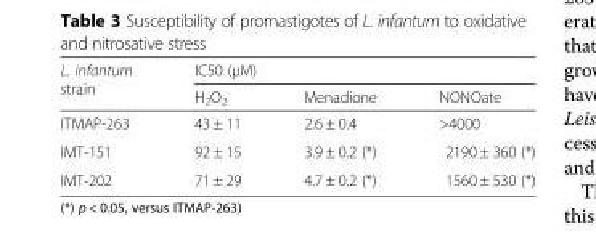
<table><thead><tr><td rowspan="2">L. infantum strain</td><td colspan="3">IC50 (μM)</td></tr><tr><td>H<sub>2</sub>O<sub>2</sub></td><td>Menadione</td><td>NONOate</td></tr></thead><tbody><tr><td>ITMAP-263</td><td>43 ± 11</td><td>2.6 ± 0.4</td><td>&gt;4000</td></tr><tr><td>IMT-151</td><td>92 ± 15</td><td>3.9 ± 0.2 (*)</td><td>2190 ± 360 (*)</td></tr><tr><td>IMT-202</td><td>71 ± 29</td><td>4.7 ± 0.2 (*)</td><td>1560 ± 530 (*)</td></tr></tbody></table>